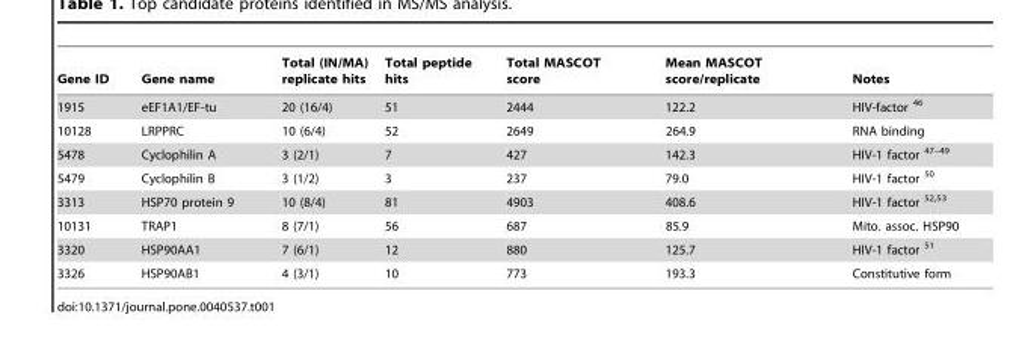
<table><thead><tr><td>Gene ID</td><td>Gene name</td><td>Total (IN/MA) replicate hits</td><td>Total peptide hits</td><td>Total MASCOT score</td><td>Mean MASCOT score/replicate</td><td>Notes</td></tr></thead><tbody><tr><td>1915</td><td>eEF1A1/EF-tu</td><td>20 (16/4)</td><td>51</td><td>2444</td><td>122.2</td><td>HIV-factor <sup>46</sup></td></tr><tr><td>10128</td><td>LRPPRC</td><td>10 (6/4)</td><td>52</td><td>2649</td><td>264.9</td><td>RNA binding</td></tr><tr><td>5478</td><td>Cyclophilin A</td><td>3 (2/1)</td><td>7</td><td>427</td><td>142.3</td><td>HIV-1 factor <sup>47–49</sup></td></tr><tr><td>5479</td><td>Cyclophilin B</td><td>3 (1/2)</td><td>3</td><td>237</td><td>79.0</td><td>HIV-1 factor <sup>50</sup></td></tr><tr><td>3313</td><td>HSP70 protein 9</td><td>10 (8/4)</td><td>81</td><td>4903</td><td>408.6</td><td>HIV-1 factor <sup>52,53</sup></td></tr><tr><td>10131</td><td>TRAP1</td><td>8 (7/1)</td><td>56</td><td>687</td><td>85.9</td><td>Mito. assoc. HSP90</td></tr><tr><td>3320</td><td>HSP90AA1</td><td>7 (6/1)</td><td>12</td><td>880</td><td>125.7</td><td>HIV-1 factor <sup>51</sup></td></tr><tr><td>3326</td><td>HSP90AB1</td><td>4 (3/1)</td><td>10</td><td>773</td><td>193.3</td><td>Constitutive form</td></tr></tbody></table>